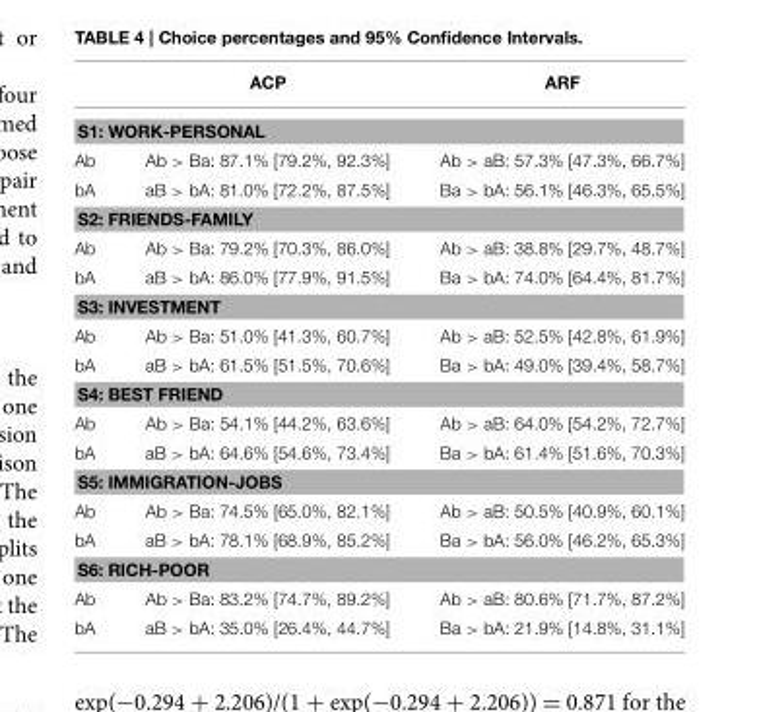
<table><thead><tr><td></td><td>ACP</td><td>ARF</td></tr></thead><tbody><tr><td colspan="3">S1: WORK-PERSONAL</td></tr><tr><td>Ab</td><td>Ab &gt; Ba: 87.1% [79.2%, 92.3%]</td><td>Ab &gt; aB: 57.3% [47.3%, 66.7%]</td></tr><tr><td>bA</td><td>aB &gt; bA: 81.0% [72.2%, 87.5%]</td><td>Ba &gt; bA: 56.1% [46.3%, 65.5%]</td></tr><tr><td colspan="3">S2: FRIENDS-FAMILY</td></tr><tr><td>Ab</td><td>Ab &gt; Ba: 79.2% [70.3%, 86.0%]</td><td>Ab &gt; aB: 38.8% [29.7%, 48.7%]</td></tr><tr><td>bA</td><td>aB &gt; bA: 86.0% [77.9%, 91.5%]</td><td>Ba &gt; bA: 74.0% [64.4%, 81.7%]</td></tr><tr><td colspan="3">S3: INVESTMENT</td></tr><tr><td>Ab</td><td>Ab &gt; Ba: 51.0% [41.3%, 60.7%]</td><td>Ab &gt; aB: 52.5% [42.8%, 61.9%]</td></tr><tr><td>bA</td><td>aB &gt; bA: 61.5% [51.5%, 70.6%]</td><td>Ba &gt; bA: 49.0% [39.4%, 58.7%]</td></tr><tr><td colspan="3">S4: BEST FRIEND</td></tr><tr><td>Ab</td><td>Ab &gt; Ba: 54.1% [44.2%, 63.6%]</td><td>Ab &gt; aB: 64.0% [54.2%, 72.7%]</td></tr><tr><td>bA</td><td>aB &gt; bA: 64.6% [54.6%, 73.4%]</td><td>Ba &gt; bA: 61.4% [51.6%, 70.3%]</td></tr><tr><td colspan="3">S5: IMMIGRATION-JOBS</td></tr><tr><td>Ab</td><td>Ab &gt; Ba: 74.5% [65.0%, 82.1%]</td><td>Ab &gt; aB: 50.5% [40.9%, 60.1%]</td></tr><tr><td>bA</td><td>aB &gt; bA: 78.1% [68.9%, 85.2%]</td><td>Ba &gt; bA: 56.0% [46.2%, 65.3%]</td></tr><tr><td colspan="3">S6: RICH-POOR</td></tr><tr><td>Ab</td><td>Ab &gt; Ba: 83.2% [74.7%, 89.2%]</td><td>Ab &gt; aB: 80.6% [71.7%, 87.2%]</td></tr><tr><td>bA</td><td>aB &gt; bA: 35.0% [26.4%, 44.7%]</td><td>Ba &gt; bA: 21.9% [14.8%, 31.1%]</td></tr></tbody></table>